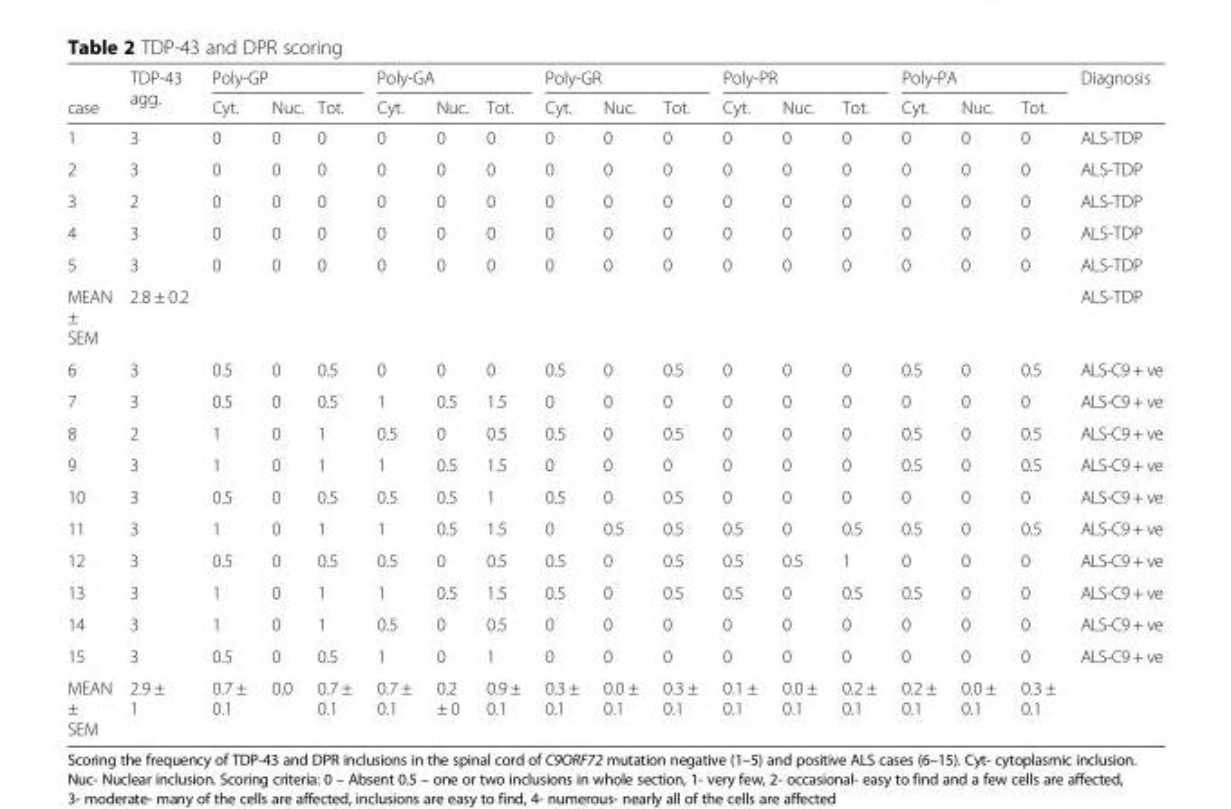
<table><thead><tr><td rowspan="2">case</td><td rowspan="2">TDP-43 agg.</td><td colspan="3">Poly-GP</td><td colspan="3">Poly-GA</td><td colspan="3">Poly-GR</td><td colspan="3">Poly-PR</td><td colspan="3">Poly-PA</td><td rowspan="2">Diagnosis</td></tr><tr><td>Cyt.</td><td>Nuc.</td><td>Tot.</td><td>Cyt.</td><td>Nuc.</td><td>Tot.</td><td>Cyt.</td><td>Nuc.</td><td>Tot.</td><td>Cyt.</td><td>Nuc.</td><td>Tot.</td><td>Cyt.</td><td>Nuc.</td><td>Tot.</td></tr></thead><tbody><tr><td>1</td><td>3</td><td>0</td><td>0</td><td>0</td><td>0</td><td>0</td><td>0</td><td>0</td><td>0</td><td>0</td><td>0</td><td>0</td><td>0</td><td>0</td><td>0</td><td>0</td><td>ALS-TDP</td></tr><tr><td>2</td><td>3</td><td>0</td><td>0</td><td>0</td><td>0</td><td>0</td><td>0</td><td>0</td><td>0</td><td>0</td><td>0</td><td>0</td><td>0</td><td>0</td><td>0</td><td>0</td><td>ALS-TDP</td></tr><tr><td>3</td><td>2</td><td>0</td><td>0</td><td>0</td><td>0</td><td>0</td><td>0</td><td>0</td><td>0</td><td>0</td><td>0</td><td>0</td><td>0</td><td>0</td><td>0</td><td>0</td><td>ALS-TDP</td></tr><tr><td>4</td><td>3</td><td>0</td><td>0</td><td>0</td><td>0</td><td>0</td><td>0</td><td>0</td><td>0</td><td>0</td><td>0</td><td>0</td><td>0</td><td>0</td><td>0</td><td>0</td><td>ALS-TDP</td></tr><tr><td>5</td><td>3</td><td>0</td><td>0</td><td>0</td><td>0</td><td>0</td><td>0</td><td>0</td><td>0</td><td>0</td><td>0</td><td>0</td><td>0</td><td>0</td><td>0</td><td>0</td><td>ALS-TDP</td></tr><tr><td>MEAN ± SEM</td><td>2.8 ± 0.2</td><td></td><td></td><td></td><td></td><td></td><td></td><td></td><td></td><td></td><td></td><td></td><td></td><td></td><td></td><td></td><td>ALS-TDP</td></tr><tr><td>6</td><td>3</td><td>0.5</td><td>0</td><td>0.5</td><td>0</td><td>0</td><td>0</td><td>0.5</td><td>0</td><td>0.5</td><td>0</td><td>0</td><td>0</td><td>0.5</td><td>0</td><td>0.5</td><td>ALS-C9 + ve</td></tr><tr><td>7</td><td>3</td><td>0.5</td><td>0</td><td>0.5</td><td>1</td><td>0.5</td><td>1.5</td><td>0</td><td>0</td><td>0</td><td>0</td><td>0</td><td>0</td><td>0</td><td>0</td><td>0</td><td>ALS-C9 + ve</td></tr><tr><td>8</td><td>2</td><td>1</td><td>0</td><td>1</td><td>0.5</td><td>0</td><td>0.5</td><td>0.5</td><td>0</td><td>0.5</td><td>0</td><td>0</td><td>0</td><td>0.5</td><td>0</td><td>0.5</td><td>ALS-C9 + ve</td></tr><tr><td>9</td><td>3</td><td>1</td><td>0</td><td>1</td><td>1</td><td>0.5</td><td>1.5</td><td>0</td><td>0</td><td>0</td><td>0</td><td>0</td><td>0</td><td>0.5</td><td>0</td><td>0.5</td><td>ALS-C9 + ve</td></tr><tr><td>10</td><td>3</td><td>0.5</td><td>0</td><td>0.5</td><td>0.5</td><td>0.5</td><td>1</td><td>0.5</td><td>0</td><td>0.5</td><td>0</td><td>0</td><td>0</td><td>0</td><td>0</td><td>0</td><td>ALS-C9 + ve</td></tr><tr><td>11</td><td>3</td><td>1</td><td>0</td><td>1</td><td>1</td><td>0.5</td><td>1.5</td><td>0</td><td>0.5</td><td>0.5</td><td>0.5</td><td>0</td><td>0.5</td><td>0.5</td><td>0</td><td>0.5</td><td>ALS-C9 + ve</td></tr><tr><td>12</td><td>3</td><td>0.5</td><td>0</td><td>0.5</td><td>0.5</td><td>0</td><td>0.5</td><td>0.5</td><td>0</td><td>0.5</td><td>0.5</td><td>0.5</td><td>1</td><td>0</td><td>0</td><td>0</td><td>ALS-C9 + ve</td></tr><tr><td>13</td><td>3</td><td>1</td><td>0</td><td>1</td><td>1</td><td>0.5</td><td>1.5</td><td>0.5</td><td>0</td><td>0.5</td><td>0.5</td><td>0</td><td>0.5</td><td>0.5</td><td>0</td><td>0</td><td>ALS-C9 + ve</td></tr><tr><td>14</td><td>3</td><td>1</td><td>0</td><td>1</td><td>0.5</td><td>0</td><td>0.5</td><td>0</td><td>0</td><td>0</td><td>0</td><td>0</td><td>0</td><td>0</td><td>0</td><td>0</td><td>ALS-C9 + ve</td></tr><tr><td>15</td><td>3</td><td>0.5</td><td>0</td><td>0.5</td><td>1</td><td>0</td><td>1</td><td>0</td><td>0</td><td>0</td><td>0</td><td>0</td><td>0</td><td>0</td><td>0</td><td>0</td><td>ALS-C9 + ve</td></tr><tr><td>MEAN ± SEM</td><td>2.9 ± 1</td><td>0.7 ± 0.1</td><td>0.0</td><td>0.7 ± 0.1</td><td>0.7 ± 0.1</td><td>0.2 ± 0</td><td>0.9 ± 0.1</td><td>0.3 ± 0.1</td><td>0.0 ± 0.1</td><td>0.3 ± 0.1</td><td>0.1 ± 0.1</td><td>0.0 ± 0.1</td><td>0.2 ± 0.1</td><td>0.2 ± 0.1</td><td>0.0 ± 0.1</td><td>0.3 ± 0.1</td><td></td></tr></tbody></table>